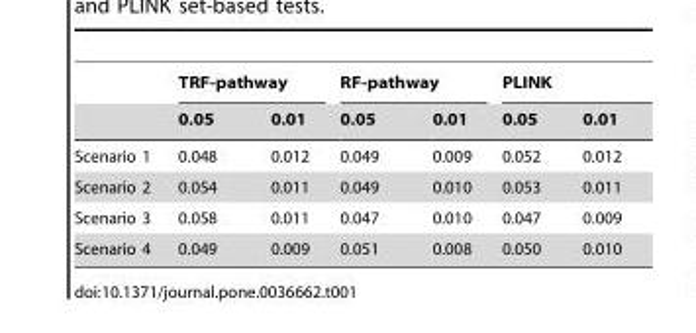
<table><thead><tr><td rowspan="2"></td><td colspan="2">TRF-pathway</td><td colspan="2">RF-pathway</td><td colspan="2">PLINK</td></tr><tr><td>0.05</td><td>0.01</td><td>0.05</td><td>0.01</td><td>0.05</td><td>0.01</td></tr></thead><tbody><tr><td>Scenario 1</td><td>0.048</td><td>0.012</td><td>0.049</td><td>0.009</td><td>0.052</td><td>0.012</td></tr><tr><td>Scenario 2</td><td>0.054</td><td>0.011</td><td>0.049</td><td>0.010</td><td>0.053</td><td>0.011</td></tr><tr><td>Scenario 3</td><td>0.058</td><td>0.011</td><td>0.047</td><td>0.010</td><td>0.047</td><td>0.009</td></tr><tr><td>Scenario 4</td><td>0.049</td><td>0.009</td><td>0.051</td><td>0.008</td><td>0.050</td><td>0.010</td></tr></tbody></table>